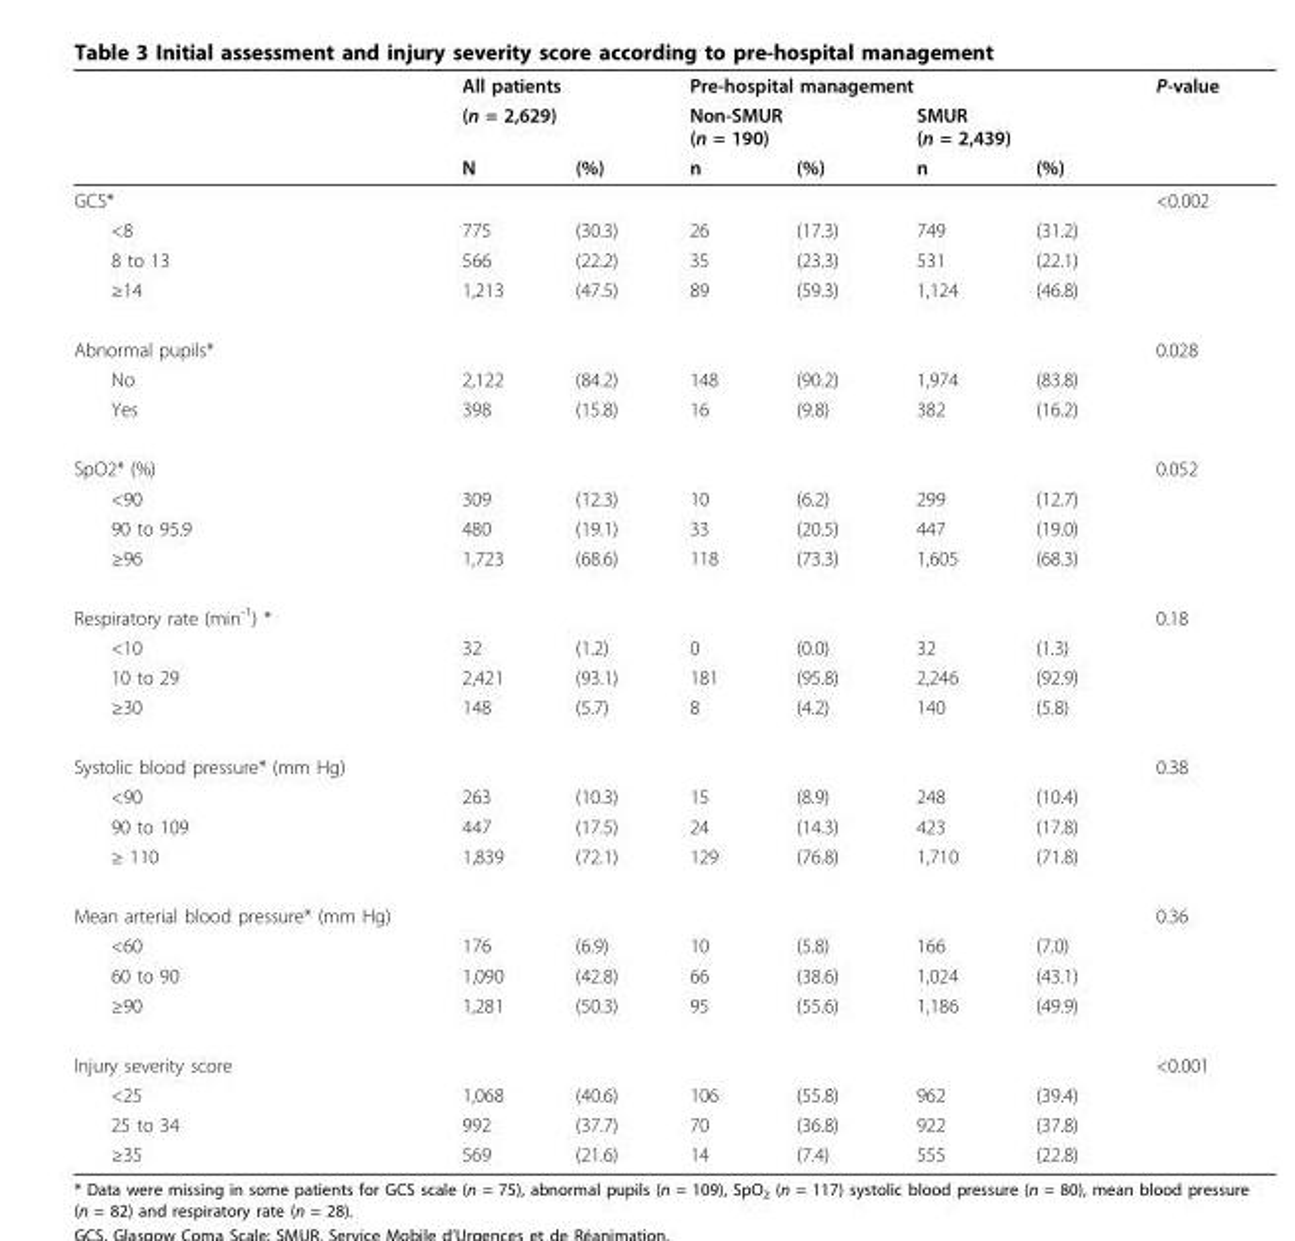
<table><thead><tr><td rowspan="3"></td><td rowspan="2" colspan="2">All patients (n = 2,629)</td><td colspan="4">Pre-hospital management</td><td rowspan="3">P-value</td></tr><tr><td colspan="2">Non-SMUR (n = 190)</td><td colspan="2">SMUR (n = 2,439)</td></tr><tr><td>N</td><td>(%)</td><td>n</td><td>(%)</td><td>n</td><td>(%)</td></tr></thead><tbody><tr><td>GCS*</td><td></td><td></td><td></td><td></td><td></td><td></td><td>&lt;0.002</td></tr><tr><td>&lt;8</td><td>775</td><td>(30.3)</td><td>26</td><td>(17.3)</td><td>749</td><td>(31.2)</td><td></td></tr><tr><td>8 to 13</td><td>566</td><td>(22.2)</td><td>35</td><td>(23.3)</td><td>531</td><td>(22.1)</td><td></td></tr><tr><td>≥14</td><td>1,213</td><td>(47.5)</td><td>89</td><td>(59.3)</td><td>1,124</td><td>(46.8)</td><td></td></tr><tr><td>Abnormal pupils*</td><td></td><td></td><td></td><td></td><td></td><td></td><td>0.028</td></tr><tr><td>No</td><td>2,122</td><td>(84.2)</td><td>148</td><td>(90.2)</td><td>1,974</td><td>(83.8)</td><td></td></tr><tr><td>Yes</td><td>398</td><td>(15.8)</td><td>16</td><td>(9.8)</td><td>382</td><td>(16.2)</td><td></td></tr><tr><td>SpO2* (%)</td><td></td><td></td><td></td><td></td><td></td><td></td><td>0.052</td></tr><tr><td>&lt;90</td><td>309</td><td>(12.3)</td><td>10</td><td>(6.2)</td><td>299</td><td>(12.7)</td><td></td></tr><tr><td>90 to 95.9</td><td>480</td><td>(19.1)</td><td>33</td><td>(20.5)</td><td>447</td><td>(19.0)</td><td></td></tr><tr><td>≥96</td><td>1,723</td><td>(68.6)</td><td>118</td><td>(73.3)</td><td>1,605</td><td>(68.3)</td><td></td></tr><tr><td>Respiratory rate (min<sup>-1</sup>) *</td><td></td><td></td><td></td><td></td><td></td><td></td><td>0.18</td></tr><tr><td>&lt;10</td><td>32</td><td>(1.2)</td><td>0</td><td>(0.0)</td><td>32</td><td>(1.3)</td><td></td></tr><tr><td>10 to 29</td><td>2,421</td><td>(93.1)</td><td>181</td><td>(95.8)</td><td>2,246</td><td>(92.9)</td><td></td></tr><tr><td>≥30</td><td>148</td><td>(5.7)</td><td>8</td><td>(4.2)</td><td>140</td><td>(5.8)</td><td></td></tr><tr><td>Systolic blood pressure* (mm Hg)</td><td></td><td></td><td></td><td></td><td></td><td></td><td>0.38</td></tr><tr><td>&lt;90</td><td>263</td><td>(10.3)</td><td>15</td><td>(8.9)</td><td>248</td><td>(10.4)</td><td></td></tr><tr><td>90 to 109</td><td>447</td><td>(17.5)</td><td>24</td><td>(14.3)</td><td>423</td><td>(17.8)</td><td></td></tr><tr><td>≥ 110</td><td>1,839</td><td>(72.1)</td><td>129</td><td>(76.8)</td><td>1,710</td><td>(71.8)</td><td></td></tr><tr><td>Mean arterial blood pressure* (mm Hg)</td><td></td><td></td><td></td><td></td><td></td><td></td><td>0.36</td></tr><tr><td>&lt;60</td><td>176</td><td>(6.9)</td><td>10</td><td>(5.8)</td><td>166</td><td>(7.0)</td><td></td></tr><tr><td>60 to 90</td><td>1,090</td><td>(42.8)</td><td>66</td><td>(38.6)</td><td>1,024</td><td>(43.1)</td><td></td></tr><tr><td>≥90</td><td>1,281</td><td>(50.3)</td><td>95</td><td>(55.6)</td><td>1,186</td><td>(49.9)</td><td></td></tr><tr><td>Injury severity score</td><td></td><td></td><td></td><td></td><td></td><td></td><td>&lt;0.001</td></tr><tr><td>&lt;25</td><td>1,068</td><td>(40.6)</td><td>106</td><td>(55.8)</td><td>962</td><td>(39.4)</td><td></td></tr><tr><td>25 to 34</td><td>992</td><td>(37.7)</td><td>70</td><td>(36.8)</td><td>922</td><td>(37.8)</td><td></td></tr><tr><td>≥35</td><td>569</td><td>(21.6)</td><td>14</td><td>(7.4)</td><td>555</td><td>(22.8)</td><td></td></tr></tbody></table>